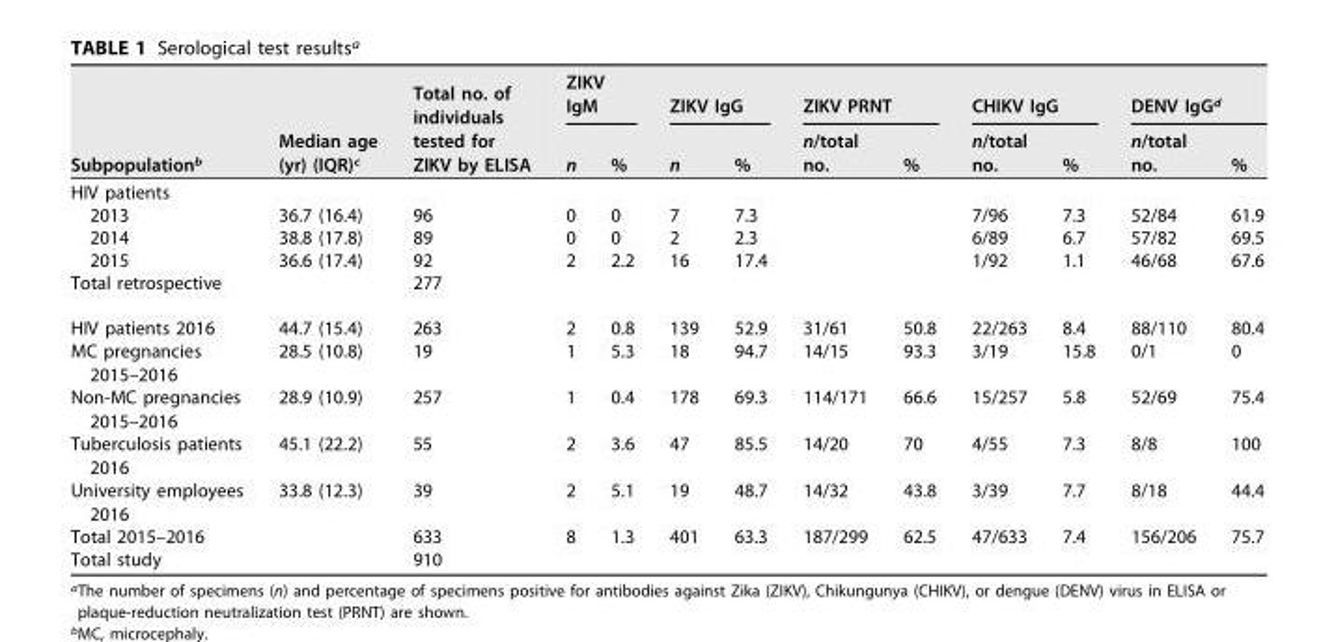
<table><thead><tr><td rowspan="2">Subpopulation<sup>b</sup></td><td rowspan="2">Median age (yr) (IQR)<sup>c</sup></td><td rowspan="2">Total no. of individuals tested for ZIKV by ELISA</td><td colspan="2">ZIKV IgM</td><td colspan="2">ZIKV IgG</td><td colspan="2">ZIKV PRNT</td><td colspan="2">CHIKV IgG</td><td colspan="2">DENV IgG<sup>d</sup></td></tr><tr><td>n</td><td>%</td><td>n</td><td>%</td><td>n/total no.</td><td>%</td><td>n/total no.</td><td>%</td><td>n/total no.</td><td>%</td></tr></thead><tbody><tr><td colspan="13">HIV patients</td></tr><tr><td>2013</td><td>36.7 (16.4)</td><td>96</td><td>0</td><td>0</td><td>7</td><td>7.3</td><td></td><td></td><td>7/96</td><td>7.3</td><td>52/84</td><td>61.9</td></tr><tr><td>2014</td><td>38.8 (17.8)</td><td>89</td><td>0</td><td>0</td><td>2</td><td>2.3</td><td></td><td></td><td>6/89</td><td>6.7</td><td>57/82</td><td>69.5</td></tr><tr><td>2015</td><td>36.6 (17.4)</td><td>92</td><td>2</td><td>2.2</td><td>16</td><td>17.4</td><td></td><td></td><td>1/92</td><td>1.1</td><td>46/68</td><td>67.6</td></tr><tr><td>Total retrospective</td><td></td><td>277</td><td></td><td></td><td></td><td></td><td></td><td></td><td></td><td></td><td></td><td></td></tr><tr><td>HIV patients 2016</td><td>44.7 (15.4)</td><td>263</td><td>2</td><td>0.8</td><td>139</td><td>52.9</td><td>31/61</td><td>50.8</td><td>22/263</td><td>8.4</td><td>88/110</td><td>80.4</td></tr><tr><td>MC pregnancies 2015–2016</td><td>28.5 (10.8)</td><td>19</td><td>1</td><td>5.3</td><td>18</td><td>94.7</td><td>14/15</td><td>93.3</td><td>3/19</td><td>15.8</td><td>0/1</td><td>0</td></tr><tr><td>Non-MC pregnancies 2015–2016</td><td>28.9 (10.9)</td><td>257</td><td>1</td><td>0.4</td><td>178</td><td>69.3</td><td>114/171</td><td>66.6</td><td>15/257</td><td>5.8</td><td>52/69</td><td>75.4</td></tr><tr><td>Tuberculosis patients 2016</td><td>45.1 (22.2)</td><td>55</td><td>2</td><td>3.6</td><td>47</td><td>85.5</td><td>14/20</td><td>70</td><td>4/55</td><td>7.3</td><td>8/8</td><td>100</td></tr><tr><td>University employees 2016</td><td>33.8 (12.3)</td><td>39</td><td>2</td><td>5.1</td><td>19</td><td>48.7</td><td>14/32</td><td>43.8</td><td>3/39</td><td>7.7</td><td>8/18</td><td>44.4</td></tr><tr><td>Total 2015–2016</td><td></td><td>633</td><td>8</td><td>1.3</td><td>401</td><td>63.3</td><td>187/299</td><td>62.5</td><td>47/633</td><td>7.4</td><td>156/206</td><td>75.7</td></tr><tr><td>Total study</td><td></td><td>910</td><td></td><td></td><td></td><td></td><td></td><td></td><td></td><td></td><td></td><td></td></tr></tbody></table>